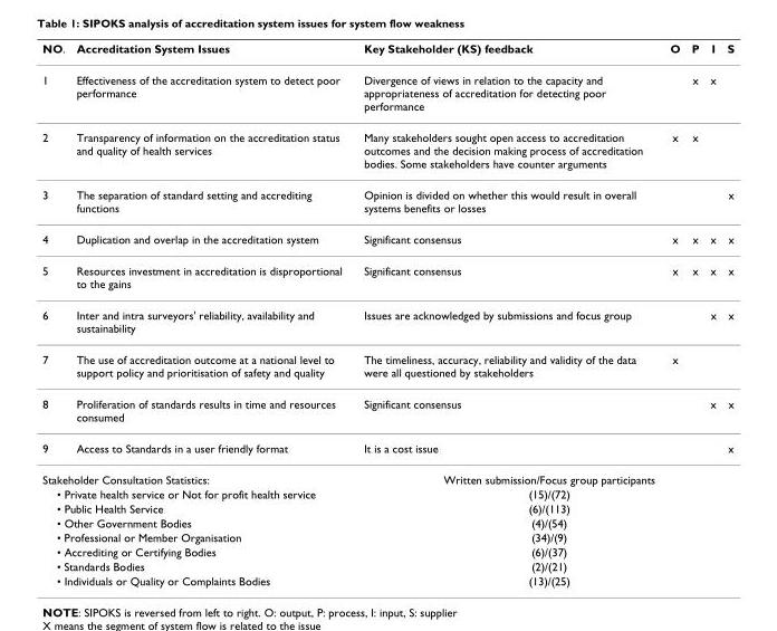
<table><thead><tr><td>NO.</td><td>Accreditation System Issues</td><td>Key Stakeholder (KS) feedback</td><td>O</td><td>P</td><td>I</td><td>S</td></tr></thead><tbody><tr><td>1</td><td>Effectiveness of the accreditation system to detect poor performance</td><td>Divergence of views in relation to the capacity and appropriateness of accreditation for detecting poor performance</td><td></td><td>x</td><td>x</td><td></td></tr><tr><td>2</td><td>Transparency of information on the accreditation status and quality of health services</td><td>Many stakeholders sought open access to accreditation outcomes and the decision making process of accreditation bodies. Some stakeholders have counter arguments</td><td>x</td><td>x</td><td></td><td></td></tr><tr><td>3</td><td>The separation of standard setting and accrediting functions</td><td>Opinion is divided on whether this would result in overall systems benefits or losses</td><td></td><td></td><td></td><td>x</td></tr><tr><td>4</td><td>Duplication and overlap in the accreditation system</td><td>Significant consensus</td><td>x</td><td>x</td><td>x</td><td>x</td></tr><tr><td>5</td><td>Resources investment in accreditation is disproportional to the gains</td><td>Significant consensus</td><td>x</td><td>x</td><td>x</td><td>x</td></tr><tr><td>6</td><td>Inter and intra surveyors&#x27; reliability, availability and sustainability</td><td>Issues are acknowledged by submissions and focus group</td><td></td><td></td><td>x</td><td>x</td></tr><tr><td>7</td><td>The use of accreditation outcome at a national level to support policy and prioritisation of safety and quality</td><td>The timeliness, accuracy, reliability and validity of the data were all questioned by stakeholders</td><td>x</td><td></td><td></td><td></td></tr><tr><td>8</td><td>Proliferation of standards results in time and resources consumed</td><td>Significant consensus</td><td></td><td></td><td>x</td><td>x</td></tr><tr><td>9</td><td>Access to Standards in a user friendly format</td><td>It is a cost issue</td><td></td><td></td><td></td><td>x</td></tr><tr><td colspan="2">Stakeholder Consultation Statistics:</td><td colspan="5">Written submission/Focus group participants</td></tr><tr><td colspan="2">• Private health service or Not for profit health service</td><td colspan="5">(15)/(72)</td></tr><tr><td colspan="2">• Public Health Service</td><td colspan="5">(6)/(113)</td></tr><tr><td colspan="2">• Other Government Bodies</td><td colspan="5">(4)/(54)</td></tr><tr><td colspan="2">• Professional or Member Organisation</td><td colspan="5">(34)/(9)</td></tr><tr><td colspan="2">• Accrediting or Certifying Bodies</td><td colspan="5">(6)/(37)</td></tr><tr><td colspan="2">• Standards Bodies</td><td colspan="5">(2)/(21)</td></tr><tr><td colspan="2">• Individuals or Quality or Complaints Bodies</td><td colspan="5">(13)/(25)</td></tr></tbody></table>